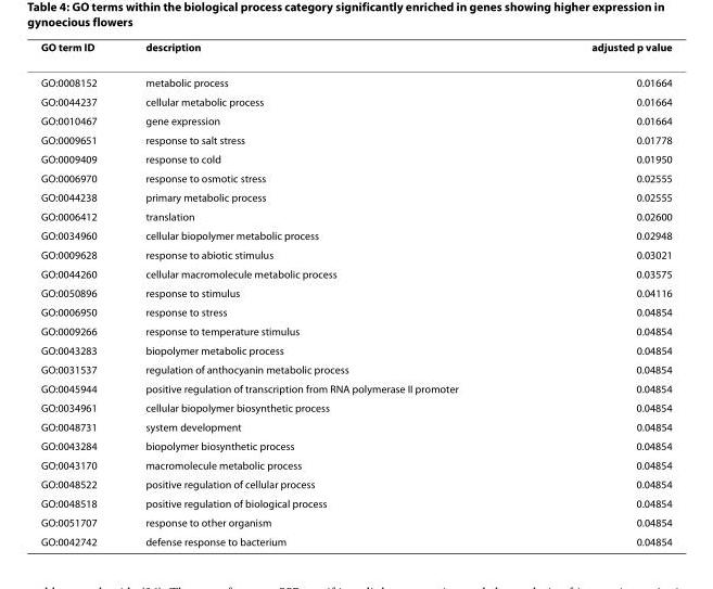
<table><thead><tr><td>GO term ID</td><td>description</td><td>adjusted p value</td></tr></thead><tbody><tr><td>GO:0008152</td><td>metabolic process</td><td>0.01664</td></tr><tr><td>GO:0044237</td><td>cellular metabolic process</td><td>0.01664</td></tr><tr><td>GO:0010467</td><td>gene expression</td><td>0.01664</td></tr><tr><td>GO:0009651</td><td>response to salt stress</td><td>0.01778</td></tr><tr><td>GO:0009409</td><td>response to cold</td><td>0.01950</td></tr><tr><td>GO:0006970</td><td>response to osmotic stress</td><td>0.02555</td></tr><tr><td>GO:0044238</td><td>primary metabolic process</td><td>0.02555</td></tr><tr><td>GO:0006412</td><td>translation</td><td>0.02600</td></tr><tr><td>GO:0034960</td><td>cellular biopolymer metabolic process</td><td>0.02948</td></tr><tr><td>GO:0009628</td><td>response to abiotic stimulus</td><td>0.03021</td></tr><tr><td>GO:0044260</td><td>cellular macromolecule metabolic process</td><td>0.03575</td></tr><tr><td>GO:0050896</td><td>response to stimulus</td><td>0.04116</td></tr><tr><td>GO:0006950</td><td>response to stress</td><td>0.04854</td></tr><tr><td>GO:0009266</td><td>response to temperature stimulus</td><td>0.04854</td></tr><tr><td>GO:0043283</td><td>biopolymer metabolic process</td><td>0.04854</td></tr><tr><td>GO:0031537</td><td>regulation of anthocyanin metabolic process</td><td>0.04854</td></tr><tr><td>GO:0045944</td><td>positive regulation of transcription from RNA polymerase II promoter</td><td>0.04854</td></tr><tr><td>GO:0034961</td><td>cellular biopolymer biosynthetic process</td><td>0.04854</td></tr><tr><td>GO:0048731</td><td>system development</td><td>0.04854</td></tr><tr><td>GO:0043284</td><td>biopolymer biosynthetic process</td><td>0.04854</td></tr><tr><td>GO:0043170</td><td>macromolecule metabolic process</td><td>0.04854</td></tr><tr><td>GO:0048522</td><td>positive regulation of cellular process</td><td>0.04854</td></tr><tr><td>GO:0048518</td><td>positive regulation of biological process</td><td>0.04854</td></tr><tr><td>GO:0051707</td><td>response to other organism</td><td>0.04854</td></tr><tr><td>GO:0042742</td><td>defense response to bacterium</td><td>0.04854</td></tr></tbody></table>